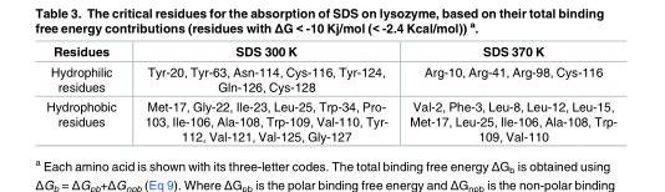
<table><thead><tr><td>Residues</td><td>SDS 300 K</td><td>SDS 370 K</td></tr></thead><tbody><tr><td>Hydrophilic residues</td><td>Tyr-20, Tyr-63, Asn-114, Cys-116, Tyr-124, Gln-126, Cys-128</td><td>Arg-10, Arg-41, Arg-98, Cys-116</td></tr><tr><td>Hydrophobic residues</td><td>Met-17, Gly-22, Ile-23, Leu-25, Trp-34, Pro- 103, Ile-106, Ala-108, Trp-109, Val-110, Tyr- 112, Val-121, Val-125, Gly-127</td><td>Val-2, Phe-3, Leu-8, Leu-12, Leu-15, Met-17, Leu-25, Ile-106, Ala-108, Trp- 109, Val-110</td></tr></tbody></table>